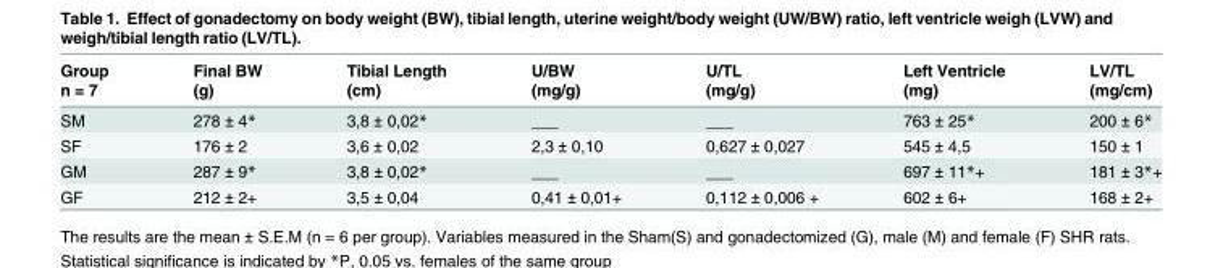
<table><thead><tr><td rowspan="2">Group n = 7</td><td rowspan="2">Final BW (g)</td><td rowspan="2">Tibial Length (cm)</td><td rowspan="2">U/BW (mg/g)</td><td rowspan="2">U/TL (mg/g)</td><td rowspan="2">Left Ventricle (mg)</td><td rowspan="2">LV/TL (mg/cm)</td></tr><tr></tr></thead><tbody><tr><td>SM</td><td>278 ± 4*</td><td>3,8 ± 0,02*</td><td>___</td><td>___</td><td>763 ± 25*</td><td>200 ± 6*</td></tr><tr><td>SF</td><td>176 ± 2</td><td>3,6 ± 0,02</td><td>2,3 ± 0,10</td><td>0,627 ± 0,027</td><td>545 ± 4,5</td><td>150 ± 1</td></tr><tr><td>GM</td><td>287 ± 9*</td><td>3,8 ± 0,02*</td><td>___</td><td>___</td><td>697 ± 11*+</td><td>181 ± 3*+</td></tr><tr><td>GF</td><td>212 ± 2+</td><td>3,5 ± 0,04</td><td>0,41 ± 0,01+</td><td>0,112 ± 0,006 +</td><td>602 ± 6+</td><td>168 ± 2+</td></tr></tbody></table>